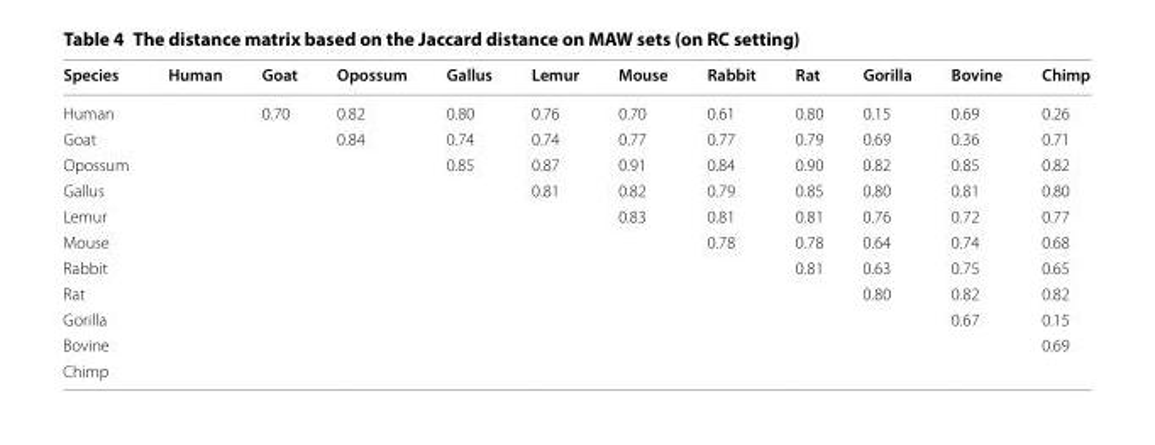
<table><thead><tr><td>Species</td><td>Human</td><td>Goat</td><td>Opossum</td><td>Gallus</td><td>Lemur</td><td>Mouse</td><td>Rabbit</td><td>Rat</td><td>Gorilla</td><td>Bovine</td><td>Chimp</td></tr></thead><tbody><tr><td>Human</td><td></td><td>0.70</td><td>0.82</td><td>0.80</td><td>0.76</td><td>0.70</td><td>0.61</td><td>0.80</td><td>0.15</td><td>0.69</td><td>0.26</td></tr><tr><td>Goat</td><td></td><td></td><td>0.84</td><td>0.74</td><td>0.74</td><td>0.77</td><td>0.77</td><td>0.79</td><td>0.69</td><td>0.36</td><td>0.71</td></tr><tr><td>Opossum</td><td></td><td></td><td></td><td>0.85</td><td>0.87</td><td>0.91</td><td>0.84</td><td>0.90</td><td>0.82</td><td>0.85</td><td>0.82</td></tr><tr><td>Gallus</td><td></td><td></td><td></td><td></td><td>0.81</td><td>0.82</td><td>0.79</td><td>0.85</td><td>0.80</td><td>0.81</td><td>0.80</td></tr><tr><td>Lemur</td><td></td><td></td><td></td><td></td><td></td><td>0.83</td><td>0.81</td><td>0.81</td><td>0.76</td><td>0.72</td><td>0.77</td></tr><tr><td>Mouse</td><td></td><td></td><td></td><td></td><td></td><td></td><td>0.78</td><td>0.78</td><td>0.64</td><td>0.74</td><td>0.68</td></tr><tr><td>Rabbit</td><td></td><td></td><td></td><td></td><td></td><td></td><td></td><td>0.81</td><td>0.63</td><td>0.75</td><td>0.65</td></tr><tr><td>Rat</td><td></td><td></td><td></td><td></td><td></td><td></td><td></td><td></td><td>0.80</td><td>0.82</td><td>0.82</td></tr><tr><td>Gorilla</td><td></td><td></td><td></td><td></td><td></td><td></td><td></td><td></td><td></td><td>0.67</td><td>0.15</td></tr><tr><td>Bovine</td><td></td><td></td><td></td><td></td><td></td><td></td><td></td><td></td><td></td><td></td><td>0.69</td></tr><tr><td>Chimp</td><td></td><td></td><td></td><td></td><td></td><td></td><td></td><td></td><td></td><td></td><td></td></tr></tbody></table>